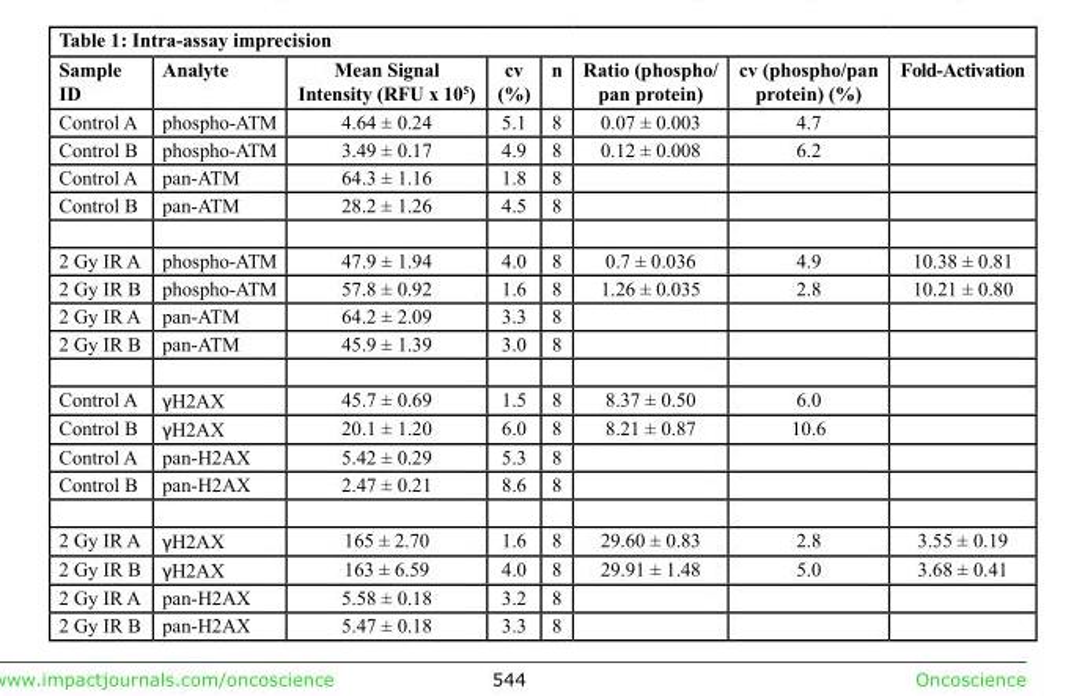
<table><thead><tr><td>Sample ID</td><td>Analyte</td><td>Mean Signal Intensity (RFU x 105)</td><td>cv (%)</td><td>n</td><td>Ratio (phospho/ pan protein)</td><td>cv (phospho/pan protein) (%)</td><td>Fold-Activation</td></tr></thead><tbody><tr><td>Control A</td><td>phospho-ATM</td><td>4.64 ± 0.24</td><td>5.1</td><td>8</td><td>0.07 ± 0.003</td><td>4.7</td><td></td></tr><tr><td>Control B</td><td>phospho-ATM</td><td>3.49 ± 0.17</td><td>4.9</td><td>8</td><td>0.12 ± 0.008</td><td>6.2</td><td></td></tr><tr><td>Control A</td><td>pan-ATM</td><td>64.3 ± 1.16</td><td>1.8</td><td>8</td><td></td><td></td><td></td></tr><tr><td>Control B</td><td>pan-ATM</td><td>28.2 ± 1.26</td><td>4.5</td><td>8</td><td></td><td></td><td></td></tr><tr><td>2 Gy IR A</td><td>phospho-ATM</td><td>47.9 ± 1.94</td><td>4.0</td><td>8</td><td>0.7 ± 0.036</td><td>4.9</td><td>10.38 ± 0.81</td></tr><tr><td>2 Gy IR B</td><td>phospho-ATM</td><td>57.8 ± 0.92</td><td>1.6</td><td>8</td><td>1.26 ± 0.035</td><td>2.8</td><td>10.21 ± 0.80</td></tr><tr><td>2 Gy IR A</td><td>pan-ATM</td><td>64.2 ± 2.09</td><td>3.3</td><td>8</td><td></td><td></td><td></td></tr><tr><td>2 Gy IR B</td><td>pan-ATM</td><td>45.9 ± 1.39</td><td>3.0</td><td>8</td><td></td><td></td><td></td></tr><tr><td>Control A</td><td>γH2AX</td><td>45.7 ± 0.69</td><td>1.5</td><td>8</td><td>8.37 ± 0.50</td><td>6.0</td><td></td></tr><tr><td>Control B</td><td>γH2AX</td><td>20.1 ± 1.20</td><td>6.0</td><td>8</td><td>8.21 ± 0.87</td><td>10.6</td><td></td></tr><tr><td>Control A</td><td>pan-H2AX</td><td>5.42 ± 0.29</td><td>5.3</td><td>8</td><td></td><td></td><td></td></tr><tr><td>Control B</td><td>pan-H2AX</td><td>2.47 ± 0.21</td><td>8.6</td><td>8</td><td></td><td></td><td></td></tr><tr><td>2 Gy IR A</td><td>γH2AX</td><td>165 ± 2.70</td><td>1.6</td><td>8</td><td>29.60 ± 0.83</td><td>2.8</td><td>3.55 ± 0.19</td></tr><tr><td>2 Gy IR B</td><td>γH2AX</td><td>163 ± 6.59</td><td>4.0</td><td>8</td><td>29.91 ± 1.48</td><td>5.0</td><td>3.68 ± 0.41</td></tr><tr><td>2 Gy IR A</td><td>pan-H2AX</td><td>5.58 ± 0.18</td><td>3.2</td><td>8</td><td></td><td></td><td></td></tr><tr><td>2 Gy IR B</td><td>pan-H2AX</td><td>5.47 ± 0.18</td><td>3.3</td><td>8</td><td></td><td></td><td></td></tr></tbody></table>